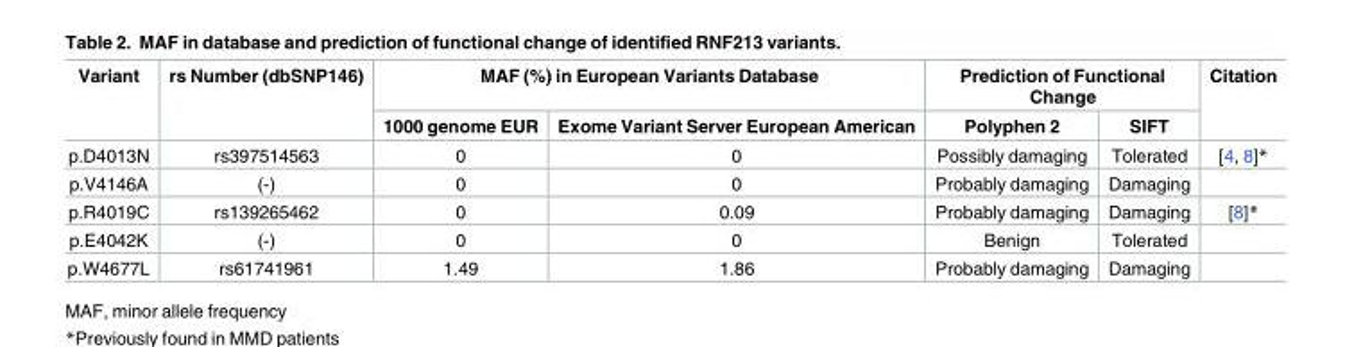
<table><thead><tr><td rowspan="2">Variant</td><td rowspan="2">rs Number (dbSNP146)</td><td colspan="2">MAF (%) in European Variants Database</td><td colspan="2">Prediction of Functional Change</td><td rowspan="2">Citation</td></tr><tr><td>1000 genome EUR</td><td>Exome Variant Server European American</td><td>Polyphen 2</td><td>SIFT</td></tr></thead><tbody><tr><td>p.D4013N</td><td>rs397514563</td><td>0</td><td>0</td><td>Possibly damaging</td><td>Tolerated</td><td>[4, 8]*</td></tr><tr><td>p.V4146A</td><td>(-)</td><td>0</td><td>0</td><td>Probably damaging</td><td>Damaging</td><td></td></tr><tr><td>p.R4019C</td><td>rs139265462</td><td>0</td><td>0.09</td><td>Probably damaging</td><td>Damaging</td><td>[8]*</td></tr><tr><td>p.E4042K</td><td>(-)</td><td>0</td><td>0</td><td>Benign</td><td>Tolerated</td><td></td></tr><tr><td>p.W4677L</td><td>rs61741961</td><td>1.49</td><td>1.86</td><td>Probably damaging</td><td>Damaging</td><td></td></tr></tbody></table>